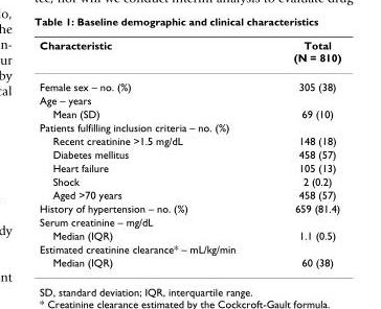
<table><thead><tr><td>Characteristic</td><td>Total (N = 810)</td></tr></thead><tbody><tr><td>Female sex – no. (%)</td><td>305 (38)</td></tr><tr><td colspan="2">Age – years</td></tr><tr><td>Mean (SD)</td><td>69 (10)</td></tr><tr><td colspan="2">Patients fulfilling inclusion criteria – no. (%)</td></tr><tr><td>Recent creatinine &gt;1.5 mg/dL</td><td>148 (18)</td></tr><tr><td>Diabetes mellitus</td><td>458 (57)</td></tr><tr><td>Heart failure</td><td>105 (13)</td></tr><tr><td>Shock</td><td>2 (0.2)</td></tr><tr><td>Aged &gt;70 years</td><td>458 (57)</td></tr><tr><td>History of hypertension – no. (%)</td><td>659 (81.4)</td></tr><tr><td colspan="2">Serum creatinine – mg/dL</td></tr><tr><td>Median (IQR)</td><td>1.1 (0.5)</td></tr><tr><td colspan="2">Estimated creatinine clearance* – mL/kg/min</td></tr><tr><td>Median (IQR)</td><td>60 (38)</td></tr></tbody></table>